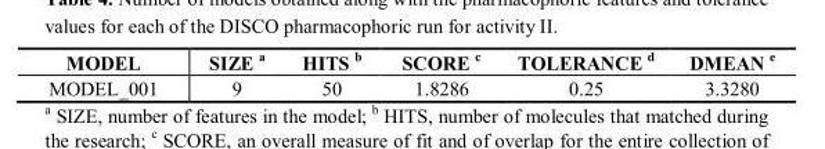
<table><thead><tr><td>MODEL</td><td>SIZE a</td><td>HITS b</td><td>SCORE c</td><td>TOLERANCE d</td><td>DMEAN e</td></tr></thead><tbody><tr><td>MODEL_001</td><td>9</td><td>50</td><td>1.8286</td><td>0.25</td><td>3.3280</td></tr></tbody></table>